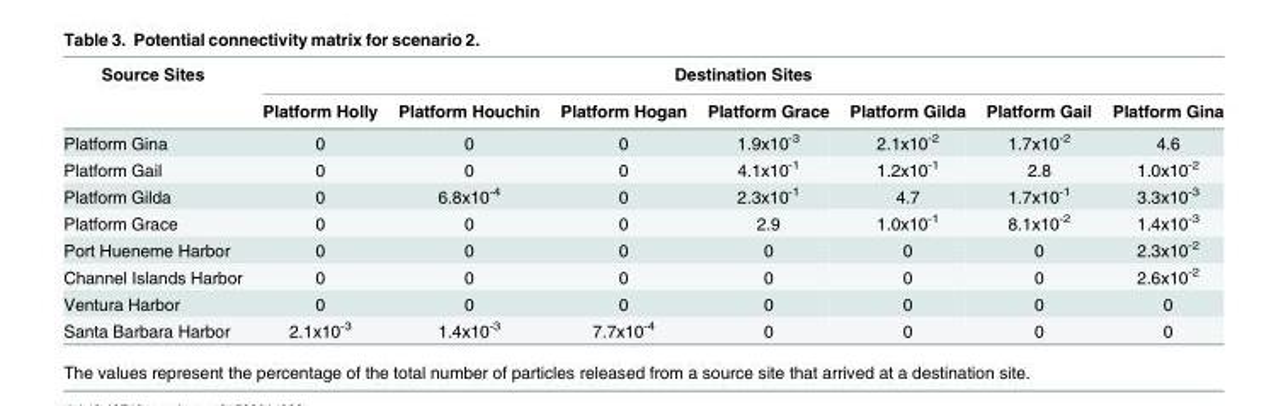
<table><thead><tr><td rowspan="2">Source Sites</td><td colspan="7">Destination Sites</td></tr><tr><td>Platform Holly</td><td>Platform Houchin</td><td>Platform Hogan</td><td>Platform Grace</td><td>Platform Gilda</td><td>Platform Gail</td><td>Platform Gina</td></tr></thead><tbody><tr><td>Platform Gina</td><td>0</td><td>0</td><td>0</td><td>1.9x10<sup>-3</sup></td><td>2.1x10<sup>-2</sup></td><td>1.7x10<sup>-2</sup></td><td>4.6</td></tr><tr><td>Platform Gail</td><td>0</td><td>0</td><td>0</td><td>4.1x10<sup>-1</sup></td><td>1.2x10<sup>-1</sup></td><td>2.8</td><td>1.0x10<sup>-2</sup></td></tr><tr><td>Platform Gilda</td><td>0</td><td>6.8x10<sup>-4</sup></td><td>0</td><td>2.3x10<sup>-1</sup></td><td>4.7</td><td>1.7x10<sup>-1</sup></td><td>3.3x10<sup>-3</sup></td></tr><tr><td>Platform Grace</td><td>0</td><td>0</td><td>0</td><td>2.9</td><td>1.0x10<sup>-1</sup></td><td>8.1x10<sup>-2</sup></td><td>1.4x10<sup>-3</sup></td></tr><tr><td>Port Hueneme Harbor</td><td>0</td><td>0</td><td>0</td><td>0</td><td>0</td><td>0</td><td>2.3x10<sup>-2</sup></td></tr><tr><td>Channel Islands Harbor</td><td>0</td><td>0</td><td>0</td><td>0</td><td>0</td><td>0</td><td>2.6x10<sup>-2</sup></td></tr><tr><td>Ventura Harbor</td><td>0</td><td>0</td><td>0</td><td>0</td><td>0</td><td>0</td><td>0</td></tr><tr><td>Santa Barbara Harbor</td><td>2.1x10<sup>-3</sup></td><td>1.4x10<sup>-3</sup></td><td>7.7x10<sup>-4</sup></td><td>0</td><td>0</td><td>0</td><td>0</td></tr></tbody></table>